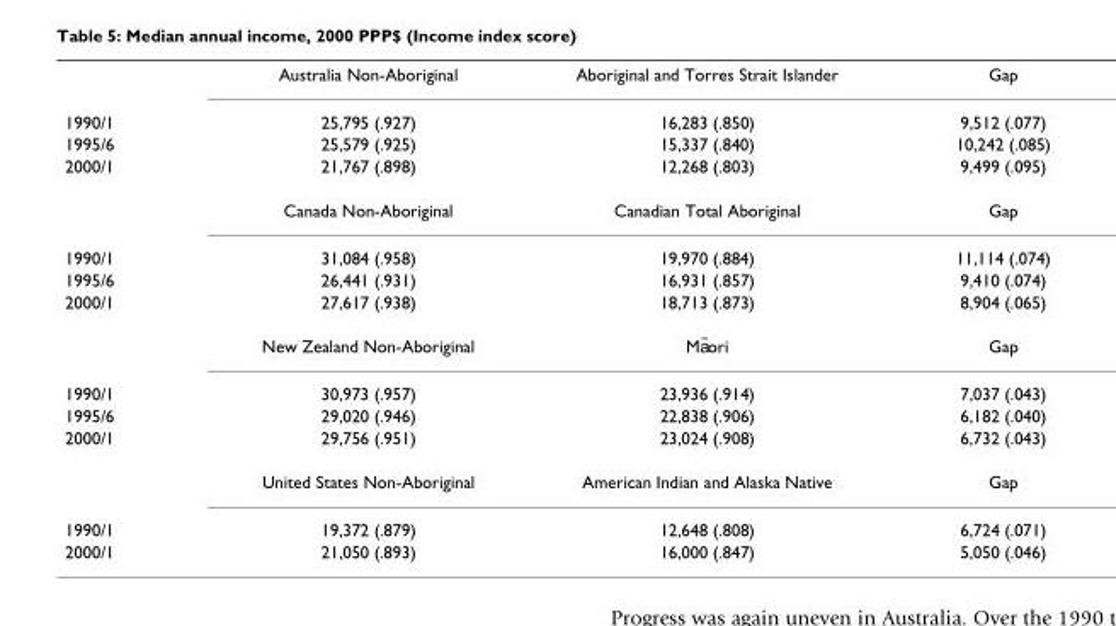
<table><thead><tr><td></td><td>Australia Non-Aboriginal</td><td>Aboriginal and Torres Strait Islander</td><td>Gap</td></tr></thead><tbody><tr><td>1990/1</td><td>25,795 (.927)</td><td>16,283 (.850)</td><td>9,512 (.077)</td></tr><tr><td>1995/6</td><td>25,579 (.925)</td><td>15,337 (.840)</td><td>10,242 (.085)</td></tr><tr><td rowspan="2">2000/1</td><td>21,767 (.898)</td><td>12,268 (.803)</td><td>9,499 (.095)</td></tr><tr><td>Canada Non-Aboriginal</td><td>Canadian Total Aboriginal</td><td>Gap</td></tr><tr><td>1990/1</td><td>31,084 (.958)</td><td>19,970 (.884)</td><td>11,114 (.074)</td></tr><tr><td>1995/6</td><td>26,441 (.931)</td><td>16,931 (.857)</td><td>9,410 (.074)</td></tr><tr><td rowspan="2">2000/1</td><td>27,617 (.938)</td><td>18,713 (.873)</td><td>8,904 (.065)</td></tr><tr><td>New Zealand Non-Aboriginal</td><td>Ma¯ori</td><td>Gap</td></tr><tr><td>1990/1</td><td>30,973 (.957)</td><td>23,936 (.914)</td><td>7,037 (.043)</td></tr><tr><td>1995/6</td><td>29,020 (.946)</td><td>22,838 (.906)</td><td>6,182 (.040)</td></tr><tr><td rowspan="2">2000/1</td><td>29,756 (.951)</td><td>23,024 (.908)</td><td>6,732 (.043)</td></tr><tr><td>United States Non-Aboriginal</td><td>American Indian and Alaska Native</td><td>Gap</td></tr><tr><td>1990/1</td><td>19,372 (.879)</td><td>12,648 (.808)</td><td>6,724 (.071)</td></tr><tr><td>2000/1</td><td>21,050 (.893)</td><td>16,000 (.847)</td><td>5,050 (.046)</td></tr></tbody></table>